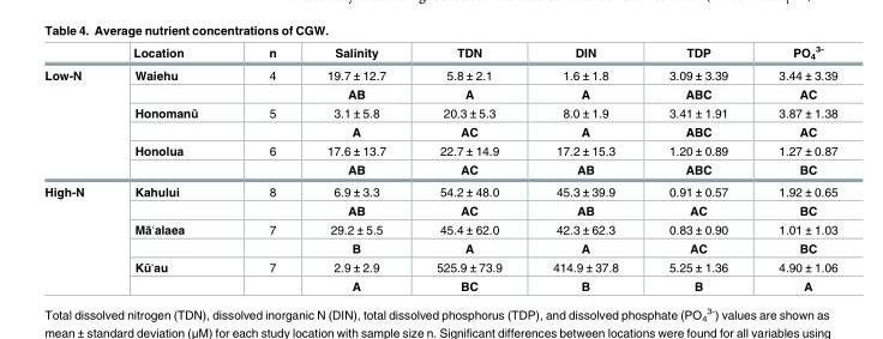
<table><thead><tr><td></td><td>Location</td><td>n</td><td>Salinity</td><td>TDN</td><td>DIN</td><td>TDP</td><td>PO<sub>4</sub> <sup>3-</sup></td></tr></thead><tbody><tr><td rowspan="6">Low-N</td><td>Waiehu</td><td>4</td><td>19.7 ± 12.7</td><td>5.8 ± 2.1</td><td>1.6 ± 1.8</td><td>3.09 ± 3.39</td><td>3.44 ± 3.39</td></tr><tr><td></td><td></td><td>AB</td><td>A</td><td>A</td><td>ABC</td><td>AC</td></tr><tr><td>Honomanū</td><td>5</td><td>3.1 ± 5.8</td><td>20.3 ± 5.3</td><td>8.0 ± 1.9</td><td>3.41 ± 1.91</td><td>3.87 ± 1.38</td></tr><tr><td></td><td></td><td>A</td><td>AC</td><td>A</td><td>ABC</td><td>AC</td></tr><tr><td>Honolua</td><td>6</td><td>17.6 ± 13.7</td><td>22.7 ± 14.9</td><td>17.2 ± 15.3</td><td>1.20 ± 0.89</td><td>1.27 ± 0.87</td></tr><tr><td></td><td></td><td>AB</td><td>AC</td><td>AB</td><td>ABC</td><td>BC</td></tr><tr><td rowspan="6">High-N</td><td>Kahului</td><td>8</td><td>6.9 ± 3.3</td><td>54.2 ± 48.0</td><td>45.3 ± 39.9</td><td>0.91 ± 0.57</td><td>1.92 ± 0.65</td></tr><tr><td></td><td></td><td>AB</td><td>AC</td><td>AB</td><td>AC</td><td>BC</td></tr><tr><td>Māʻalaea</td><td>7</td><td>29.2 ± 5.5</td><td>45.4 ± 62.0</td><td>42.3 ± 62.3</td><td>0.83 ± 0.90</td><td>1.01 ± 1.03</td></tr><tr><td></td><td></td><td>B</td><td>A</td><td>A</td><td>AC</td><td>BC</td></tr><tr><td>Kūʻau</td><td>7</td><td>2.9 ± 2.9</td><td>525.9 ± 73.9</td><td>414.9 ± 37.8</td><td>5.25 ± 1.36</td><td>4.90 ± 1.06</td></tr><tr><td></td><td></td><td>A</td><td>BC</td><td>B</td><td>B</td><td>A</td></tr></tbody></table>